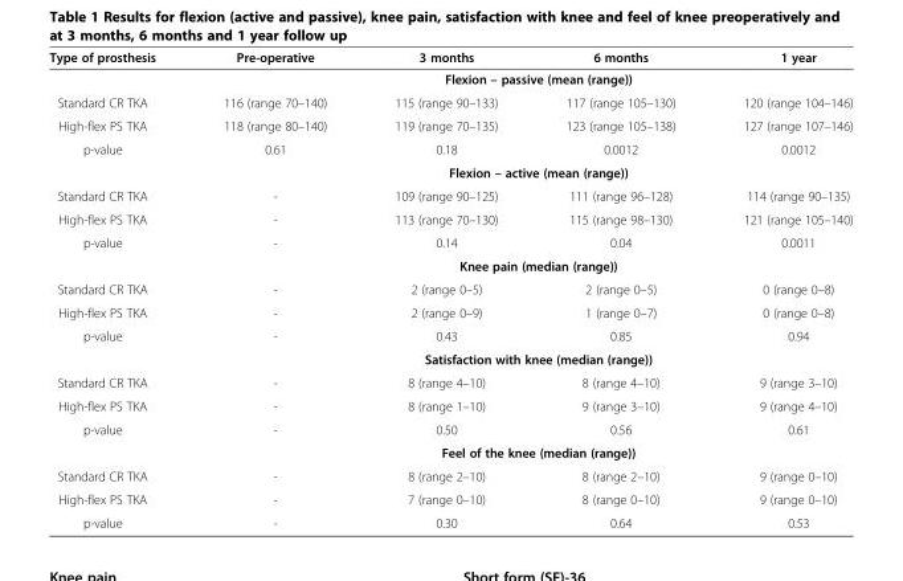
<table><thead><tr><td>Type of prosthesis</td><td>Pre-operative</td><td>3 months</td><td>6 months</td><td>1 year</td></tr></thead><tbody><tr><td></td><td colspan="4">Flexion – passive (mean (range))</td></tr><tr><td>Standard CR TKA</td><td>116 (range 70–140)</td><td>115 (range 90–133)</td><td>117 (range 105–130)</td><td>120 (range 104–146)</td></tr><tr><td>High-flex PS TKA</td><td>118 (range 80–140)</td><td>119 (range 70–135)</td><td>123 (range 105–138)</td><td>127 (range 107–146)</td></tr><tr><td rowspan="2">p-value</td><td>0.61</td><td>0.18</td><td>0.0012</td><td>0.0012</td></tr><tr><td colspan="4">Flexion – active (mean (range))</td></tr><tr><td>Standard CR TKA</td><td>-</td><td>109 (range 90–125)</td><td>111 (range 96–128)</td><td>114 (range 90–135)</td></tr><tr><td>High-flex PS TKA</td><td>-</td><td>113 (range 70–130)</td><td>115 (range 98–130)</td><td>121 (range 105–140)</td></tr><tr><td rowspan="2">p-value</td><td>-</td><td>0.14</td><td>0.04</td><td>0.0011</td></tr><tr><td colspan="4">Knee pain (median (range))</td></tr><tr><td>Standard CR TKA</td><td>-</td><td>2 (range 0–5)</td><td>2 (range 0–5)</td><td>0 (range 0–8)</td></tr><tr><td>High-flex PS TKA</td><td>-</td><td>2 (range 0–9)</td><td>1 (range 0–7)</td><td>0 (range 0–8)</td></tr><tr><td rowspan="2">p-value</td><td>-</td><td>0.43</td><td>0.85</td><td>0.94</td></tr><tr><td colspan="4">Satisfaction with knee (median (range))</td></tr><tr><td>Standard CR TKA</td><td>-</td><td>8 (range 4–10)</td><td>8 (range 4–10)</td><td>9 (range 3–10)</td></tr><tr><td>High-flex PS TKA</td><td>-</td><td>8 (range 1–10)</td><td>9 (range 3–10)</td><td>9 (range 4–10)</td></tr><tr><td rowspan="2">p-value</td><td>-</td><td>0.50</td><td>0.56</td><td>0.61</td></tr><tr><td colspan="4">Feel of the knee (median (range))</td></tr><tr><td>Standard CR TKA</td><td>-</td><td>8 (range 2–10)</td><td>8 (range 2–10)</td><td>9 (range 0–10)</td></tr><tr><td>High-flex PS TKA</td><td>-</td><td>7 (range 0–10)</td><td>8 (range 0–10)</td><td>9 (range 0–10)</td></tr><tr><td>p-value</td><td>-</td><td>0.30</td><td>0.64</td><td>0.53</td></tr></tbody></table>